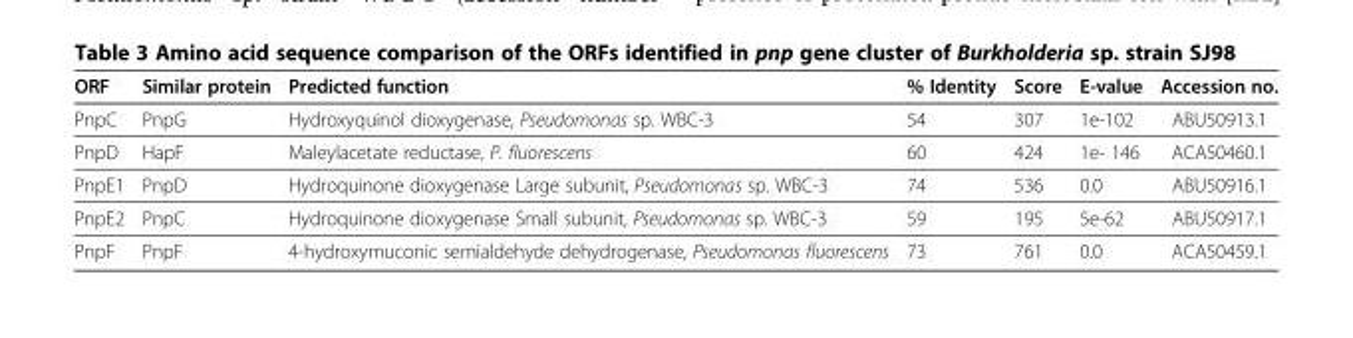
<table><thead><tr><td>ORF</td><td>Similar protein</td><td>Predicted function</td><td>% Identity</td><td>Score</td><td>E-value</td><td>Accession no.</td></tr></thead><tbody><tr><td>PnpC</td><td>PnpG</td><td>Hydroxyquinol dioxygenase, Pseudomonas sp. WBC-3</td><td>54</td><td>307</td><td>1e-102</td><td>ABU50913.1</td></tr><tr><td>PnpD</td><td>HapF</td><td>Maleylacetate reductase, P. fluorescens</td><td>60</td><td>424</td><td>1e- 146</td><td>ACA50460.1</td></tr><tr><td>PnpE1</td><td>PnpD</td><td>Hydroquinone dioxygenase Large subunit, Pseudomonas sp. WBC-3</td><td>74</td><td>536</td><td>0.0</td><td>ABU50916.1</td></tr><tr><td>PnpE2</td><td>PnpC</td><td>Hydroquinone dioxygenase Small subunit, Pseudomonas sp. WBC-3</td><td>59</td><td>195</td><td>5e-62</td><td>ABU50917.1</td></tr><tr><td>PnpF</td><td>PnpF</td><td>4-hydroxymuconic semialdehyde dehydrogenase, Pseudomonas fluorescens</td><td>73</td><td>761</td><td>0.0</td><td>ACA50459.1</td></tr></tbody></table>